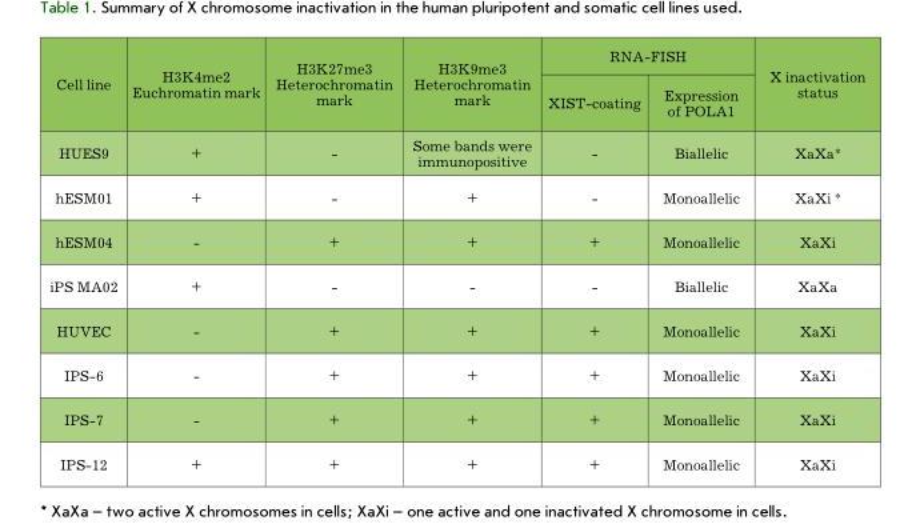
<table><thead><tr><td rowspan="2">cell line</td><td rowspan="2">H3K4me2 euchromatin mark</td><td rowspan="2">H3K27me3 Heterochromatin mark</td><td rowspan="2">H3K9me3 Heterochromatin mark</td><td colspan="2">rnA-FISH</td><td rowspan="2">X inactivation status</td></tr><tr><td>XISt-coating</td><td>expression of POLA1</td></tr></thead><tbody><tr><td>HueS9</td><td>+</td><td>-</td><td>Some bands were immunopositive</td><td>-</td><td>Biallelic</td><td>XаXa*</td></tr><tr><td>heSM01</td><td>+</td><td>-</td><td>+</td><td>-</td><td>Monoallelic</td><td>XaXi *</td></tr><tr><td>heSM04</td><td>-</td><td>+</td><td>+</td><td>+</td><td>Monoallelic</td><td>XaXi</td></tr><tr><td>iPS MA02</td><td>+</td><td>-</td><td>-</td><td>-</td><td>Biallelic</td><td>XаXa</td></tr><tr><td>HuVec</td><td>-</td><td>+</td><td>+</td><td>+</td><td>Monoallelic</td><td>XaXi</td></tr><tr><td>IPS-6</td><td>-</td><td>+</td><td>+</td><td>+</td><td>Monoallelic</td><td>XaXi</td></tr><tr><td>IPS-7</td><td>-</td><td>+</td><td>+</td><td>+</td><td>Monoallelic</td><td>XaXi</td></tr><tr><td>IPS-12</td><td>+</td><td>+</td><td>+</td><td>+</td><td>Monoallelic</td><td>XaXi</td></tr></tbody></table>